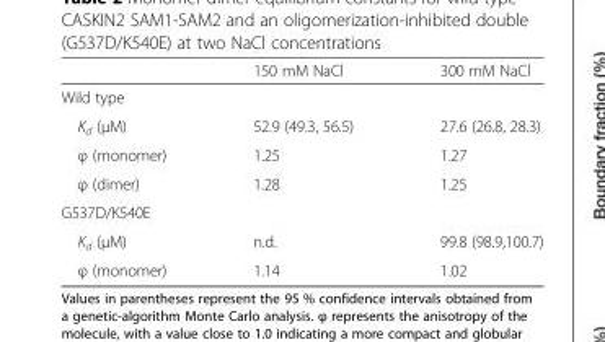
<table><thead><tr><td></td><td>150 mM NaCl</td><td>300 mM NaCl</td></tr></thead><tbody><tr><td colspan="3">Wild type</td></tr><tr><td>K<sub>d</sub> (μM)</td><td>52.9 (49.3, 56.5)</td><td>27.6 (26.8, 28.3)</td></tr><tr><td>φ (monomer)</td><td>1.25</td><td>1.27</td></tr><tr><td>φ (dimer)</td><td>1.28</td><td>1.25</td></tr><tr><td colspan="3">G537D/K540E</td></tr><tr><td>K<sub>d</sub> (μM)</td><td>n.d.</td><td>99.8 (98.9,100.7)</td></tr><tr><td>φ (monomer)</td><td>1.14</td><td>1.02</td></tr></tbody></table>